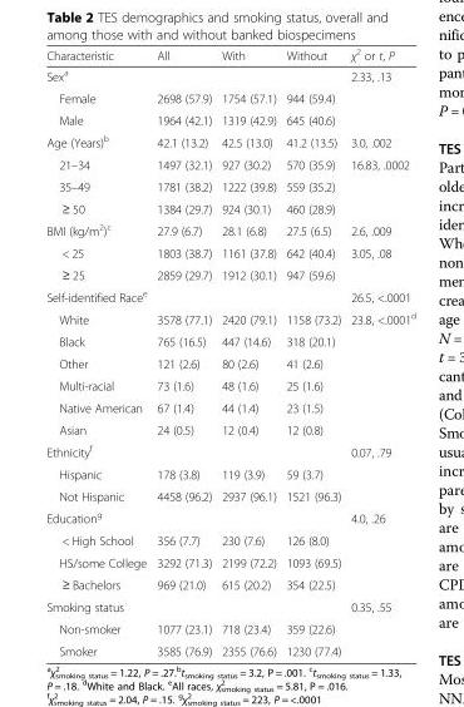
<table><thead><tr><td>Characteristic</td><td>All</td><td>With</td><td>Without</td><td>χ<sup>2</sup> or t, P</td></tr></thead><tbody><tr><td>Sex<sup>a</sup></td><td></td><td></td><td></td><td>2.33, .13</td></tr><tr><td>Female</td><td>2698 (57.9)</td><td>1754 (57.1)</td><td>944 (59.4)</td><td></td></tr><tr><td>Male</td><td>1964 (42.1)</td><td>1319 (42.9)</td><td>645 (40.6)</td><td></td></tr><tr><td>Age (Years)<sup>b</sup></td><td>42.1 (13.2)</td><td>42.5 (13.0)</td><td>41.2 (13.5)</td><td>3.0, .002</td></tr><tr><td>21–34</td><td>1497 (32.1)</td><td>927 (30.2)</td><td>570 (35.9)</td><td>16.83, .0002</td></tr><tr><td>35–49</td><td>1781 (38.2)</td><td>1222 (39.8)</td><td>559 (35.2)</td><td></td></tr><tr><td>≥ 50</td><td>1384 (29.7)</td><td>924 (30.1)</td><td>460 (28.9)</td><td></td></tr><tr><td>BMI (kg/m<sup>2</sup>)<sup>c</sup></td><td>27.9 (6.7)</td><td>28.1 (6.8)</td><td>27.5 (6.5)</td><td>2.6, .009</td></tr><tr><td>&lt; 25</td><td>1803 (38.7)</td><td>1161 (37.8)</td><td>642 (40.4)</td><td>3.05, .08</td></tr><tr><td>≥ 25</td><td>2859 (29.7)</td><td>1912 (30.1)</td><td>947 (59.6)</td><td></td></tr><tr><td>Self-identified Race<sup>e</sup></td><td></td><td></td><td></td><td>26.5, &lt;.0001</td></tr><tr><td>White</td><td>3578 (77.1)</td><td>2420 (79.1)</td><td>1158 (73.2)</td><td>23.8, &lt;.0001<sup>d</sup></td></tr><tr><td>Black</td><td>765 (16.5)</td><td>447 (14.6)</td><td>318 (20.1)</td><td></td></tr><tr><td>Other</td><td>121 (2.6)</td><td>80 (2.6)</td><td>41 (2.6)</td><td></td></tr><tr><td>Multi-racial</td><td>73 (1.6)</td><td>48 (1.6)</td><td>25 (1.6)</td><td></td></tr><tr><td>Native American</td><td>67 (1.4)</td><td>44 (1.4)</td><td>23 (1.5)</td><td></td></tr><tr><td>Asian</td><td>24 (0.5)</td><td>12 (0.4)</td><td>12 (0.8)</td><td></td></tr><tr><td>Ethnicity<sup>f</sup></td><td></td><td></td><td></td><td>0.07, .79</td></tr><tr><td>Hispanic</td><td>178 (3.8)</td><td>119 (3.9)</td><td>59 (3.7)</td><td></td></tr><tr><td>Not Hispanic</td><td>4458 (96.2)</td><td>2937 (96.1)</td><td>1521 (96.3)</td><td></td></tr><tr><td>Education<sup>g</sup></td><td></td><td></td><td></td><td>4.0, .26</td></tr><tr><td>&lt; High School</td><td>356 (7.7)</td><td>230 (7.6)</td><td>126 (8.0)</td><td></td></tr><tr><td>HS/some College</td><td>3292 (71.3)</td><td>2199 (72.2)</td><td>1093 (69.5)</td><td></td></tr><tr><td>≥ Bachelors</td><td>969 (21.0)</td><td>615 (20.2)</td><td>354 (22.5)</td><td></td></tr><tr><td>Smoking status</td><td></td><td></td><td></td><td>0.35, .55</td></tr><tr><td>Non-smoker</td><td>1077 (23.1)</td><td>718 (23.4)</td><td>359 (22.6)</td><td></td></tr><tr><td>Smoker</td><td>3585 (76.9)</td><td>2355 (76.6)</td><td>1230 (77.4)</td><td></td></tr></tbody></table>